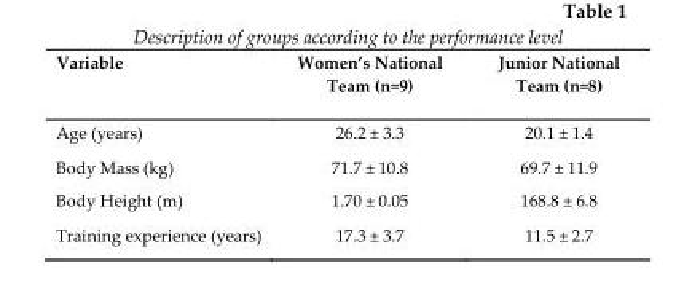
<table><thead><tr><td>Variable</td><td>Women’s National Team (n=9)</td><td>Junior National Team (n=8)</td></tr></thead><tbody><tr><td>Age (years)</td><td>26.2 ± 3.3</td><td>20.1 ± 1.4</td></tr><tr><td>Body Mass (kg)</td><td>71.7 ± 10.8</td><td>69.7 ± 11.9</td></tr><tr><td>Body Height (m)</td><td>1.70 ± 0.05</td><td>168.8 ± 6.8</td></tr><tr><td>Training experience (years)</td><td>17.3 ± 3.7</td><td>11.5 ± 2.7</td></tr></tbody></table>